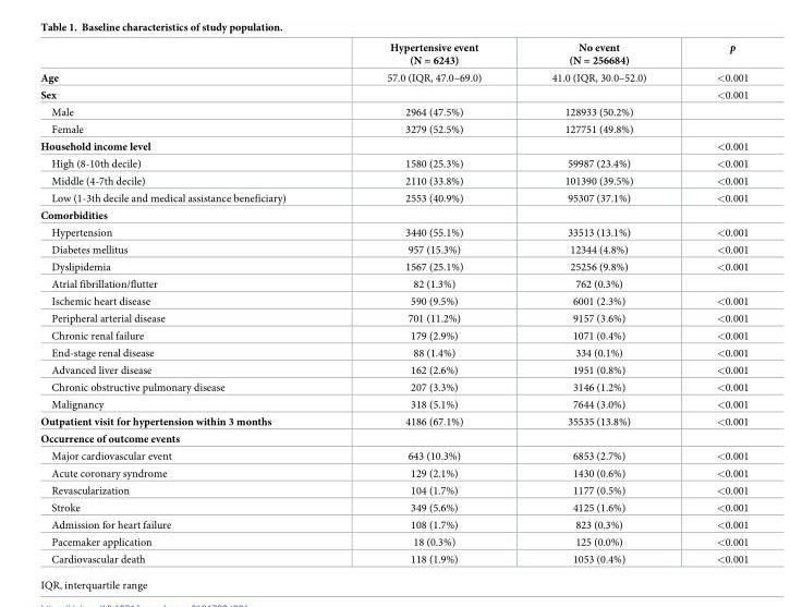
<table><thead><tr><td></td><td>Hypertensive event (N = 6243)</td><td>No event (N = 256684)</td><td>p</td></tr></thead><tbody><tr><td>Age</td><td>57.0 (IQR, 47.0–69.0)</td><td>41.0 (IQR, 30.0–52.0)</td><td>&lt;0.001</td></tr><tr><td>Sex</td><td></td><td></td><td>&lt;0.001</td></tr><tr><td>Male</td><td>2964 (47.5%)</td><td>128933 (50.2%)</td><td></td></tr><tr><td>Female</td><td>3279 (52.5%)</td><td>127751 (49.8%)</td><td></td></tr><tr><td>Household income level</td><td></td><td></td><td>&lt;0.001</td></tr><tr><td>High (8-10th decile)</td><td>1580 (25.3%)</td><td>59987 (23.4%)</td><td>&lt;0.001</td></tr><tr><td>Middle (4-7th decile)</td><td>2110 (33.8%)</td><td>101390 (39.5%)</td><td>&lt;0.001</td></tr><tr><td>Low (1-3th decile and medical assistance beneficiary)</td><td>2553 (40.9%)</td><td>95307 (37.1%)</td><td>&lt;0.001</td></tr><tr><td colspan="4">Comorbidities</td></tr><tr><td>Hypertension</td><td>3440 (55.1%)</td><td>33513 (13.1%)</td><td>&lt;0.001</td></tr><tr><td>Diabetes mellitus</td><td>957 (15.3%)</td><td>12344 (4.8%)</td><td>&lt;0.001</td></tr><tr><td>Dyslipidemia</td><td>1567 (25.1%)</td><td>25256 (9.8%)</td><td>&lt;0.001</td></tr><tr><td>Atrial fibrillation/flutter</td><td>82 (1.3%)</td><td>762 (0.3%)</td><td></td></tr><tr><td>Ischemic heart disease</td><td>590 (9.5%)</td><td>6001 (2.3%)</td><td>&lt;0.001</td></tr><tr><td>Peripheral arterial disease</td><td>701 (11.2%)</td><td>9157 (3.6%)</td><td>&lt;0.001</td></tr><tr><td>Chronic renal failure</td><td>179 (2.9%)</td><td>1071 (0.4%)</td><td>&lt;0.001</td></tr><tr><td>End-stage renal disease</td><td>88 (1.4%)</td><td>334 (0.1%)</td><td>&lt;0.001</td></tr><tr><td>Advanced liver disease</td><td>162 (2.6%)</td><td>1951 (0.8%)</td><td>&lt;0.001</td></tr><tr><td>Chronic obstructive pulmonary disease</td><td>207 (3.3%)</td><td>3146 (1.2%)</td><td>&lt;0.001</td></tr><tr><td>Malignancy</td><td>318 (5.1%)</td><td>7644 (3.0%)</td><td>&lt;0.001</td></tr><tr><td>Outpatient visit for hypertension within 3 months</td><td>4186 (67.1%)</td><td>35535 (13.8%)</td><td>&lt;0.001</td></tr><tr><td colspan="4">Occurrence of outcome events</td></tr><tr><td>Major cardiovascular event</td><td>643 (10.3%)</td><td>6853 (2.7%)</td><td>&lt;0.001</td></tr><tr><td>Acute coronary syndrome</td><td>129 (2.1%)</td><td>1430 (0.6%)</td><td>&lt;0.001</td></tr><tr><td>Revascularization</td><td>104 (1.7%)</td><td>1177 (0.5%)</td><td>&lt;0.001</td></tr><tr><td>Stroke</td><td>349 (5.6%)</td><td>4125 (1.6%)</td><td>&lt;0.001</td></tr><tr><td>Admission for heart failure</td><td>108 (1.7%)</td><td>823 (0.3%)</td><td>&lt;0.001</td></tr><tr><td>Pacemaker application</td><td>18 (0.3%)</td><td>125 (0.0%)</td><td>&lt;0.001</td></tr><tr><td>Cardiovascular death</td><td>118 (1.9%)</td><td>1053 (0.4%)</td><td>&lt;0.001</td></tr></tbody></table>